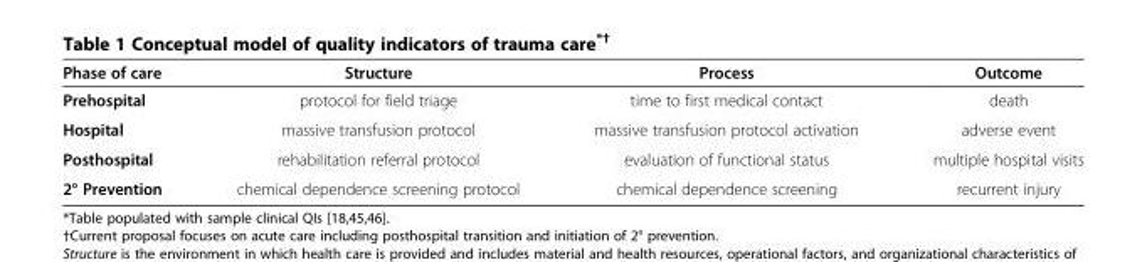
<table><thead><tr><td>Phase of care</td><td>Structure</td><td>Process</td><td>Outcome</td></tr></thead><tbody><tr><td>Prehospital</td><td>protocol for field triage</td><td>time to first medical contact</td><td>death</td></tr><tr><td>Hospital</td><td>massive transfusion protocol</td><td>massive transfusion protocol activation</td><td>adverse event</td></tr><tr><td>Posthospital</td><td>rehabilitation referral protocol</td><td>evaluation of functional status</td><td>multiple hospital visits</td></tr><tr><td>2° Prevention</td><td>chemical dependence screening protocol</td><td>chemical dependence screening</td><td>recurrent injury</td></tr></tbody></table>